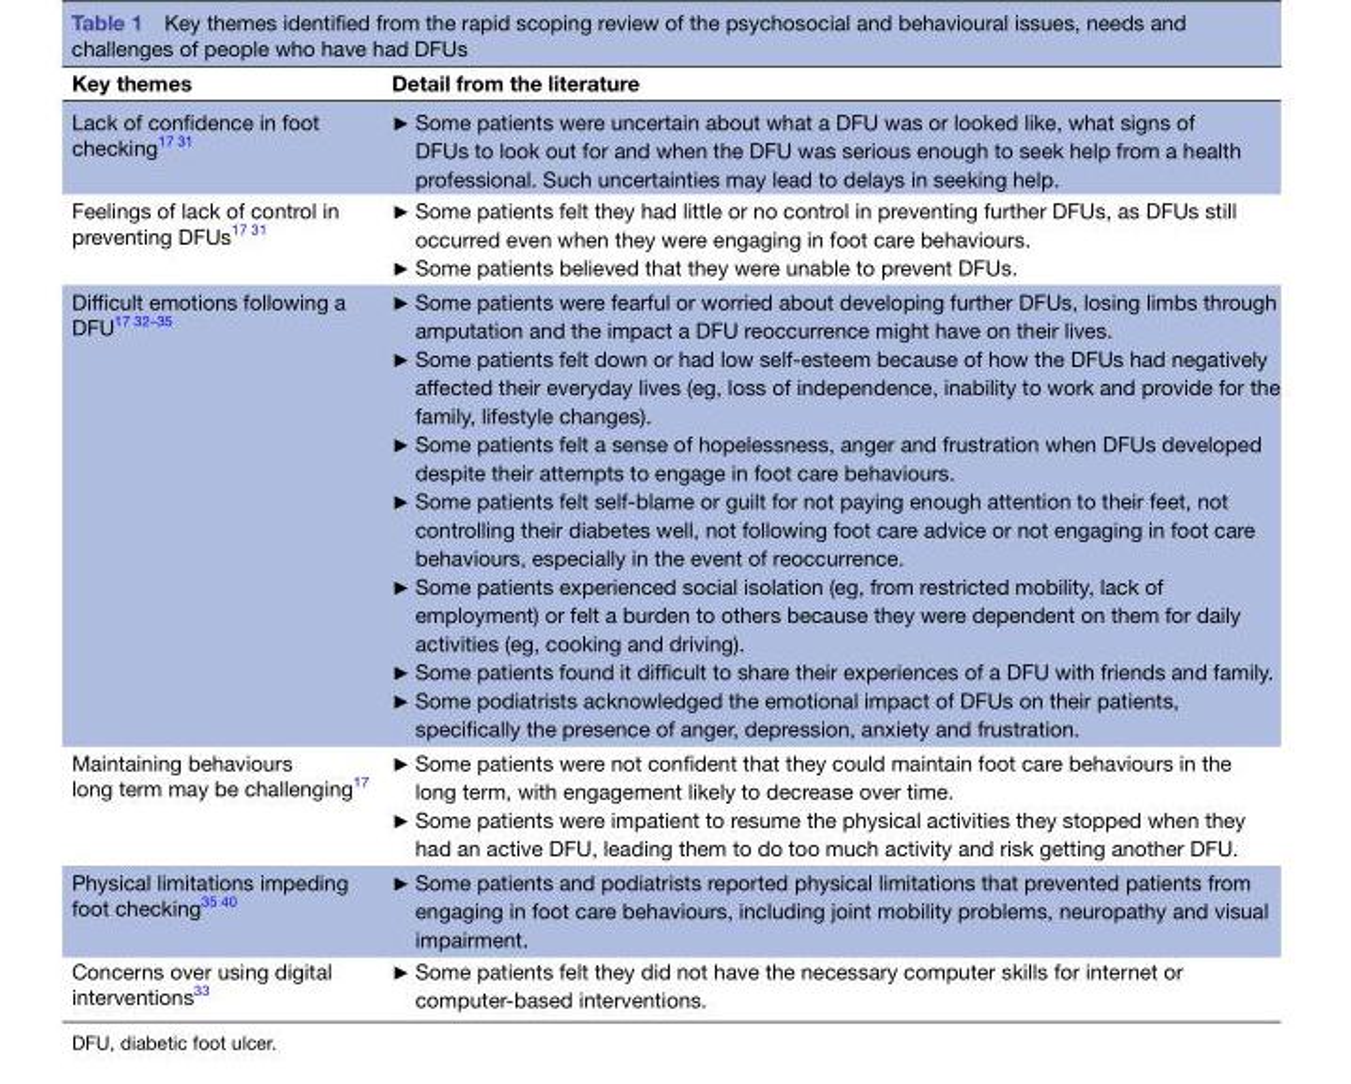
<table><thead><tr><td>Key themes</td><td>Detail from the literature</td></tr></thead><tbody><tr><td>Lack of confidence in foot checking<sup>17 31</sup></td><td>► Some patients were uncertain about what a DFU was or looked like, what signs of DFUs to look out for and when the DFU was serious enough to seek help from a health professional. Such uncertainties may lead to delays in seeking help.</td></tr><tr><td>Feelings of lack of control in preventing DFUs<sup>17 31</sup></td><td>► Some patients felt they had little or no control in preventing further DFUs, as DFUs still occurred even when they were engaging in foot care behaviours. ► Some patients believed that they were unable to prevent DFUs.</td></tr><tr><td>Difficult emotions following a DFU<sup>17 32–35</sup></td><td>► Some patients were fearful or worried about developing further DFUs, losing limbs through amputation and the impact a DFU reoccurrence might have on their lives. ► Some patients felt down or had low self-esteem because of how the DFUs had negatively affected their everyday lives (eg, loss of independence, inability to work and provide for the family, lifestyle changes). ► Some patients felt a sense of hopelessness, anger and frustration when DFUs developed despite their attempts to engage in foot care behaviours. ► Some patients felt self-blame or guilt for not paying enough attention to their feet, not controlling their diabetes well, not following foot care advice or not engaging in foot care behaviours, especially in the event of reoccurrence. ► Some patients experienced social isolation (eg, from restricted mobility, lack of employment) or felt a burden to others because they were dependent on them for daily activities (eg, cooking and driving). ► Some patients found it difficult to share their experiences of a DFU with friends and family. ► Some podiatrists acknowledged the emotional impact of DFUs on their patients, specifically the presence of anger, depression, anxiety and frustration.</td></tr><tr><td>Maintaining behaviours long term may be challenging<sup>17</sup></td><td>► Some patients were not confident that they could maintain foot care behaviours in the long term, with engagement likely to decrease over time. ► Some patients were impatient to resume the physical activities they stopped when they had an active DFU, leading them to do too much activity and risk getting another DFU.</td></tr><tr><td>Physical limitations impeding foot checking<sup>35 40</sup></td><td>► Some patients and podiatrists reported physical limitations that prevented patients from engaging in foot care behaviours, including joint mobility problems, neuropathy and visual impairment.</td></tr><tr><td>Concerns over using digital interventions<sup>33</sup></td><td>► Some patients felt they did not have the necessary computer skills for internet or computer-based interventions.</td></tr></tbody></table>